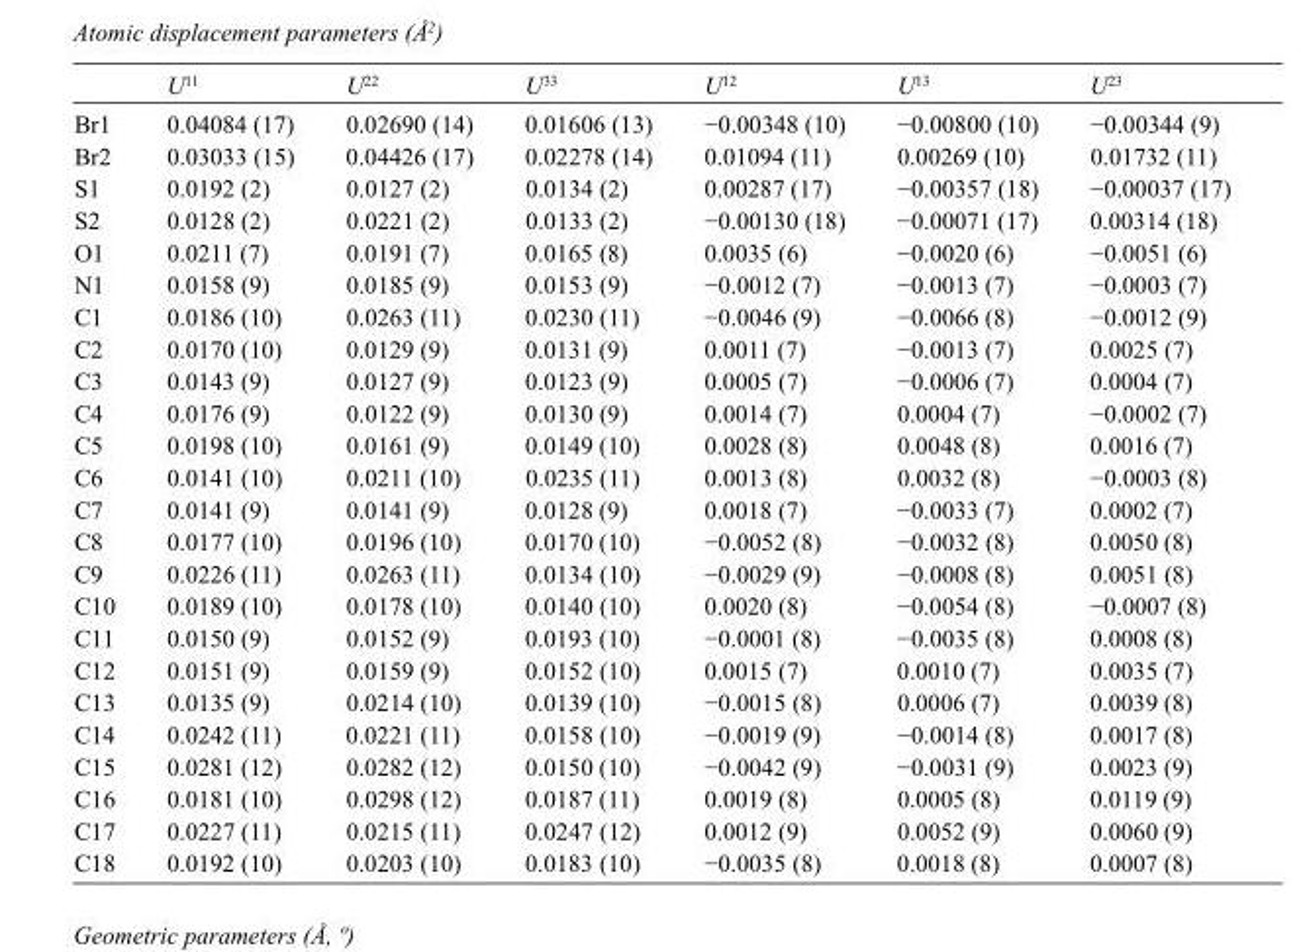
<table><thead><tr><td></td><td>U<sup>11</sup></td><td>U<sup>22</sup></td><td>U<sup>33</sup></td><td>U<sup>12</sup></td><td>U<sup>13</sup></td><td>U<sup>23</sup></td></tr></thead><tbody><tr><td>Br1</td><td>0.04084 (17)</td><td>0.02690 (14)</td><td>0.01606 (13)</td><td>−0.00348 (10)</td><td>−0.00800 (10)</td><td>−0.00344 (9)</td></tr><tr><td>Br2</td><td>0.03033 (15)</td><td>0.04426 (17)</td><td>0.02278 (14)</td><td>0.01094 (11)</td><td>0.00269 (10)</td><td>0.01732 (11)</td></tr><tr><td>S1</td><td>0.0192 (2)</td><td>0.0127 (2)</td><td>0.0134 (2)</td><td>0.00287 (17)</td><td>−0.00357 (18)</td><td>−0.00037 (17)</td></tr><tr><td>S2</td><td>0.0128 (2)</td><td>0.0221 (2)</td><td>0.0133 (2)</td><td>−0.00130 (18)</td><td>−0.00071 (17)</td><td>0.00314 (18)</td></tr><tr><td>O1</td><td>0.0211 (7)</td><td>0.0191 (7)</td><td>0.0165 (8)</td><td>0.0035 (6)</td><td>−0.0020 (6)</td><td>−0.0051 (6)</td></tr><tr><td>N1</td><td>0.0158 (9)</td><td>0.0185 (9)</td><td>0.0153 (9)</td><td>−0.0012 (7)</td><td>−0.0013 (7)</td><td>−0.0003 (7)</td></tr><tr><td>C1</td><td>0.0186 (10)</td><td>0.0263 (11)</td><td>0.0230 (11)</td><td>−0.0046 (9)</td><td>−0.0066 (8)</td><td>−0.0012 (9)</td></tr><tr><td>C2</td><td>0.0170 (10)</td><td>0.0129 (9)</td><td>0.0131 (9)</td><td>0.0011 (7)</td><td>−0.0013 (7)</td><td>0.0025 (7)</td></tr><tr><td>C3</td><td>0.0143 (9)</td><td>0.0127 (9)</td><td>0.0123 (9)</td><td>0.0005 (7)</td><td>−0.0006 (7)</td><td>0.0004 (7)</td></tr><tr><td>C4</td><td>0.0176 (9)</td><td>0.0122 (9)</td><td>0.0130 (9)</td><td>0.0014 (7)</td><td>0.0004 (7)</td><td>−0.0002 (7)</td></tr><tr><td>C5</td><td>0.0198 (10)</td><td>0.0161 (9)</td><td>0.0149 (10)</td><td>0.0028 (8)</td><td>0.0048 (8)</td><td>0.0016 (7)</td></tr><tr><td>C6</td><td>0.0141 (10)</td><td>0.0211 (10)</td><td>0.0235 (11)</td><td>0.0013 (8)</td><td>0.0032 (8)</td><td>−0.0003 (8)</td></tr><tr><td>C7</td><td>0.0141 (9)</td><td>0.0141 (9)</td><td>0.0128 (9)</td><td>0.0018 (7)</td><td>−0.0033 (7)</td><td>0.0002 (7)</td></tr><tr><td>C8</td><td>0.0177 (10)</td><td>0.0196 (10)</td><td>0.0170 (10)</td><td>−0.0052 (8)</td><td>−0.0032 (8)</td><td>0.0050 (8)</td></tr><tr><td>C9</td><td>0.0226 (11)</td><td>0.0263 (11)</td><td>0.0134 (10)</td><td>−0.0029 (9)</td><td>−0.0008 (8)</td><td>0.0051 (8)</td></tr><tr><td>C10</td><td>0.0189 (10)</td><td>0.0178 (10)</td><td>0.0140 (10)</td><td>0.0020 (8)</td><td>−0.0054 (8)</td><td>−0.0007 (8)</td></tr><tr><td>C11</td><td>0.0150 (9)</td><td>0.0152 (9)</td><td>0.0193 (10)</td><td>−0.0001 (8)</td><td>−0.0035 (8)</td><td>0.0008 (8)</td></tr><tr><td>C12</td><td>0.0151 (9)</td><td>0.0159 (9)</td><td>0.0152 (10)</td><td>0.0015 (7)</td><td>0.0010 (7)</td><td>0.0035 (7)</td></tr><tr><td>C13</td><td>0.0135 (9)</td><td>0.0214 (10)</td><td>0.0139 (10)</td><td>−0.0015 (8)</td><td>0.0006 (7)</td><td>0.0039 (8)</td></tr><tr><td>C14</td><td>0.0242 (11)</td><td>0.0221 (11)</td><td>0.0158 (10)</td><td>−0.0019 (9)</td><td>−0.0014 (8)</td><td>0.0017 (8)</td></tr><tr><td>C15</td><td>0.0281 (12)</td><td>0.0282 (12)</td><td>0.0150 (10)</td><td>−0.0042 (9)</td><td>−0.0031 (9)</td><td>0.0023 (9)</td></tr><tr><td>C16</td><td>0.0181 (10)</td><td>0.0298 (12)</td><td>0.0187 (11)</td><td>0.0019 (8)</td><td>0.0005 (8)</td><td>0.0119 (9)</td></tr><tr><td>C17</td><td>0.0227 (11)</td><td>0.0215 (11)</td><td>0.0247 (12)</td><td>0.0012 (9)</td><td>0.0052 (9)</td><td>0.0060 (9)</td></tr><tr><td>C18</td><td>0.0192 (10)</td><td>0.0203 (10)</td><td>0.0183 (10)</td><td>−0.0035 (8)</td><td>0.0018 (8)</td><td>0.0007 (8)</td></tr></tbody></table>